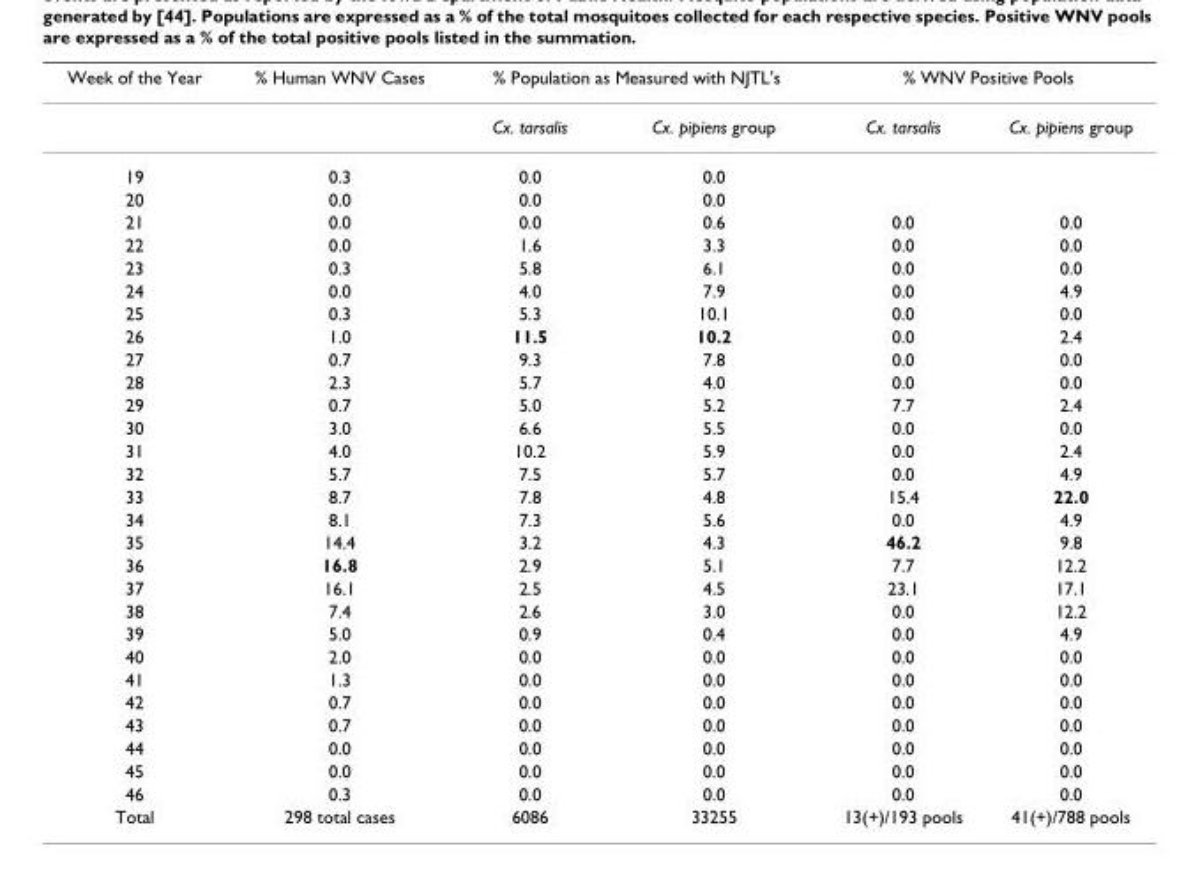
<table><thead><tr><td rowspan="2">Week of the Year</td><td rowspan="2">% Human WNV Cases</td><td colspan="2">% Population as Measured with NJTL&#x27;s</td><td colspan="2">% WNV Positive Pools</td></tr><tr><td>Cx. tarsalis</td><td>Cx. pipiens group</td><td>Cx. tarsalis</td><td>Cx. pipiens group</td></tr></thead><tbody><tr><td>19</td><td>0.3</td><td>0.0</td><td>0.0</td><td></td><td></td></tr><tr><td>20</td><td>0.0</td><td>0.0</td><td>0.0</td><td></td><td></td></tr><tr><td>21</td><td>0.0</td><td>0.0</td><td>0.6</td><td>0.0</td><td>0.0</td></tr><tr><td>22</td><td>0.0</td><td>1.6</td><td>3.3</td><td>0.0</td><td>0.0</td></tr><tr><td>23</td><td>0.3</td><td>5.8</td><td>6.1</td><td>0.0</td><td>0.0</td></tr><tr><td>24</td><td>0.0</td><td>4.0</td><td>7.9</td><td>0.0</td><td>4.9</td></tr><tr><td>25</td><td>0.3</td><td>5.3</td><td>10.1</td><td>0.0</td><td>0.0</td></tr><tr><td>26</td><td>1.0</td><td>11.5</td><td>10.2</td><td>0.0</td><td>2.4</td></tr><tr><td>27</td><td>0.7</td><td>9.3</td><td>7.8</td><td>0.0</td><td>0.0</td></tr><tr><td>28</td><td>2.3</td><td>5.7</td><td>4.0</td><td>0.0</td><td>0.0</td></tr><tr><td>29</td><td>0.7</td><td>5.0</td><td>5.2</td><td>7.7</td><td>2.4</td></tr><tr><td>30</td><td>3.0</td><td>6.6</td><td>5.5</td><td>0.0</td><td>0.0</td></tr><tr><td>31</td><td>4.0</td><td>10.2</td><td>5.9</td><td>0.0</td><td>2.4</td></tr><tr><td>32</td><td>5.7</td><td>7.5</td><td>5.7</td><td>0.0</td><td>4.9</td></tr><tr><td>33</td><td>8.7</td><td>7.8</td><td>4.8</td><td>15.4</td><td>22.0</td></tr><tr><td>34</td><td>8.1</td><td>7.3</td><td>5.6</td><td>0.0</td><td>4.9</td></tr><tr><td>35</td><td>14.4</td><td>3.2</td><td>4.3</td><td>46.2</td><td>9.8</td></tr><tr><td>36</td><td>16.8</td><td>2.9</td><td>5.1</td><td>7.7</td><td>12.2</td></tr><tr><td>37</td><td>16.1</td><td>2.5</td><td>4.5</td><td>23.1</td><td>17.1</td></tr><tr><td>38</td><td>7.4</td><td>2.6</td><td>3.0</td><td>0.0</td><td>12.2</td></tr><tr><td>39</td><td>5.0</td><td>0.9</td><td>0.4</td><td>0.0</td><td>4.9</td></tr><tr><td>40</td><td>2.0</td><td>0.0</td><td>0.0</td><td>0.0</td><td>0.0</td></tr><tr><td>41</td><td>1.3</td><td>0.0</td><td>0.0</td><td>0.0</td><td>0.0</td></tr><tr><td>42</td><td>0.7</td><td>0.0</td><td>0.0</td><td>0.0</td><td>0.0</td></tr><tr><td>43</td><td>0.7</td><td>0.0</td><td>0.0</td><td>0.0</td><td>0.0</td></tr><tr><td>44</td><td>0.0</td><td>0.0</td><td>0.0</td><td>0.0</td><td>0.0</td></tr><tr><td>45</td><td>0.0</td><td>0.0</td><td>0.0</td><td>0.0</td><td>0.0</td></tr><tr><td>46</td><td>0.3</td><td>0.0</td><td>0.0</td><td>0.0</td><td>0.0</td></tr><tr><td>Total</td><td>298 total cases</td><td>6086</td><td>33255</td><td>13(+)/193 pools</td><td>41(+)/788 pools</td></tr></tbody></table>